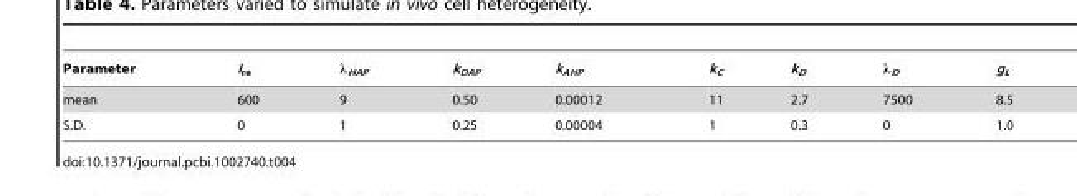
<table><thead><tr><td>Parameter</td><td>I<sub>re</sub></td><td>λ<sub>HAP</sub></td><td>k<sub>DAP</sub></td><td>k<sub>AHP</sub></td><td>k<sub>C</sub></td><td>k<sub>D</sub></td><td>λ<sub>D</sub></td><td>g<sub>L</sub></td></tr></thead><tbody><tr><td>mean</td><td>600</td><td>9</td><td>0.50</td><td>0.00012</td><td>11</td><td>2.7</td><td>7500</td><td>8.5</td></tr><tr><td>S.D.</td><td>0</td><td>1</td><td>0.25</td><td>0.00004</td><td>1</td><td>0.3</td><td>0</td><td>1.0</td></tr></tbody></table>